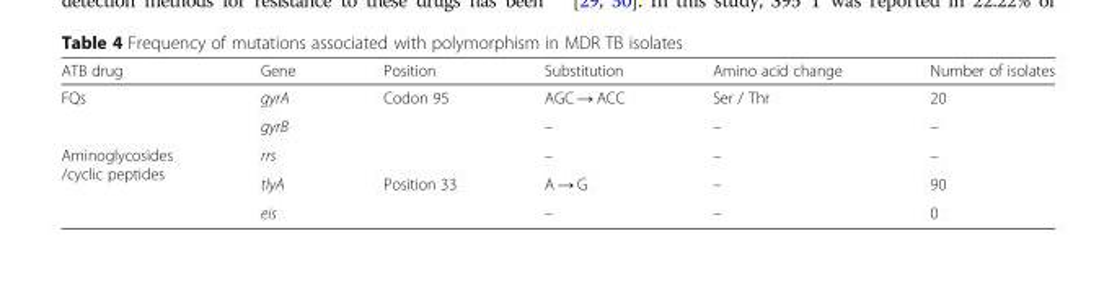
<table><thead><tr><td>ATB drug</td><td>Gene</td><td>Position</td><td>Substitution</td><td>Amino acid change</td><td>Number of isolates</td></tr></thead><tbody><tr><td rowspan="2">FQs</td><td>gyrA</td><td>Codon 95</td><td>AGC → ACC</td><td>Ser / Thr</td><td>20</td></tr><tr><td>gyrB</td><td></td><td>–</td><td>–</td><td>–</td></tr><tr><td rowspan="3">Aminoglycosides /cyclic peptides</td><td>rrs</td><td></td><td>–</td><td>–</td><td>–</td></tr><tr><td>tlyA</td><td>Position 33</td><td>A → G</td><td>–</td><td>90</td></tr><tr><td>eis</td><td></td><td>–</td><td>–</td><td>0</td></tr></tbody></table>